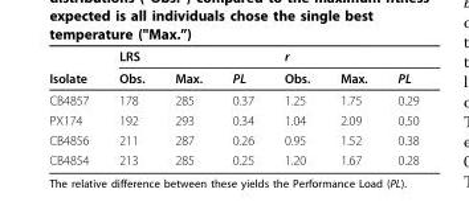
<table><thead><tr><td rowspan="2">Isolate</td><td colspan="3">LRS</td><td colspan="3">r</td></tr><tr><td>Obs.</td><td>Max.</td><td>PL</td><td>Obs.</td><td>Max.</td><td>PL</td></tr></thead><tbody><tr><td>CB4857</td><td>178</td><td>285</td><td>0.37</td><td>1.25</td><td>1.75</td><td>0.29</td></tr><tr><td>PX174</td><td>192</td><td>293</td><td>0.34</td><td>1.04</td><td>2.09</td><td>0.50</td></tr><tr><td>CB4856</td><td>211</td><td>287</td><td>0.26</td><td>0.95</td><td>1.52</td><td>0.38</td></tr><tr><td>CB4854</td><td>213</td><td>285</td><td>0.25</td><td>1.20</td><td>1.67</td><td>0.28</td></tr></tbody></table>